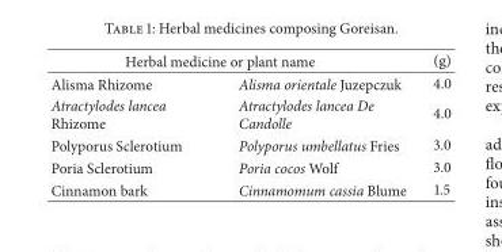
<table><thead><tr><td colspan="2">Herbal medicine or plant name</td><td rowspan="2">(g) 4.0</td></tr><tr><td>Alisma Rhizome</td><td>Alisma orientale Juzepczuk</td></tr></thead><tbody><tr><td>Atractylodes lancea Rhizome</td><td>Atractylodes lancea De Candolle</td><td>4.0</td></tr><tr><td>Polyporus Sclerotium</td><td>Polyporus umbellatus Fries</td><td>3.0</td></tr><tr><td>Poria Sclerotium</td><td>Poria cocos Wolf</td><td>3.0</td></tr><tr><td>Cinnamon bark</td><td>Cinnamomum cassia Blume</td><td>1.5</td></tr></tbody></table>